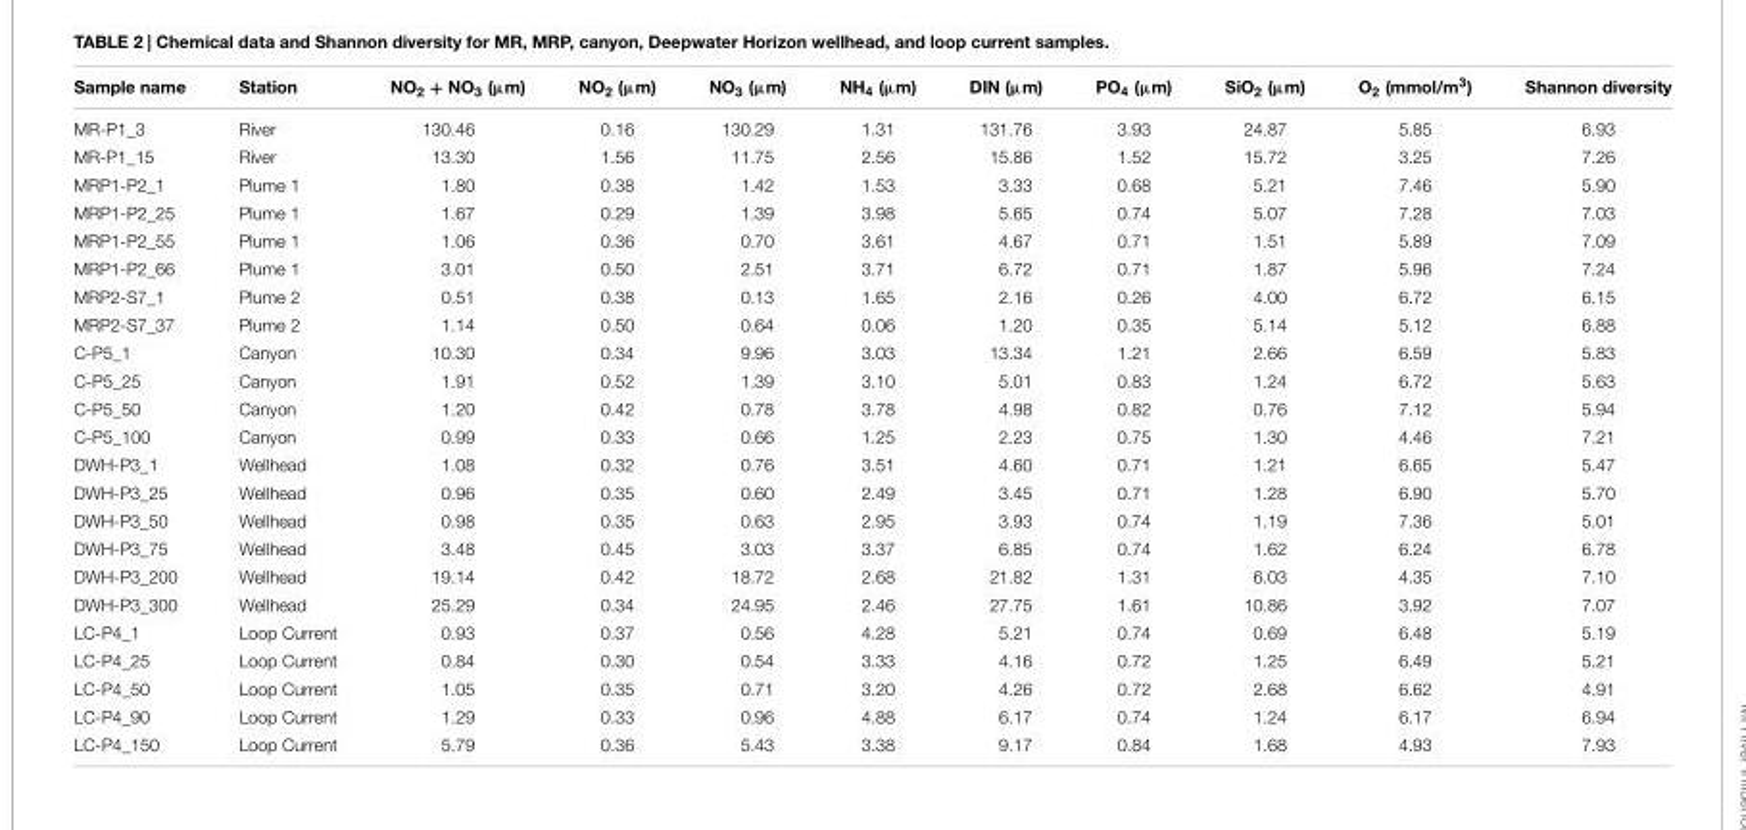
<table><thead><tr><td>Sample name</td><td>Station</td><td>NO<sub>2</sub> + NO<sub>3</sub> (µm)</td><td>NO<sub>2</sub> (µm)</td><td>NO<sub>3</sub> (µm)</td><td>NH<sub>4</sub> (µm)</td><td>DIN (µm)</td><td>PO<sub>4</sub> (µm)</td><td>SiO<sub>2</sub> (µm)</td><td>O<sub>2</sub> (mmol/m<sup>3</sup>)</td><td>Shannon diversity</td></tr></thead><tbody><tr><td>MR-P1_3</td><td>River</td><td>130.46</td><td>0.16</td><td>130.29</td><td>1.31</td><td>131.76</td><td>3.93</td><td>24.87</td><td>5.85</td><td>6.93</td></tr><tr><td>MR-P1_15</td><td>River</td><td>13.30</td><td>1.56</td><td>11.75</td><td>2.56</td><td>15.86</td><td>1.52</td><td>15.72</td><td>3.25</td><td>7.26</td></tr><tr><td>MRP1-P2_1</td><td>Plume 1</td><td>1.80</td><td>0.38</td><td>1.42</td><td>1.53</td><td>3.33</td><td>0.68</td><td>5.21</td><td>7.46</td><td>5.90</td></tr><tr><td>MRP1-P2_25</td><td>Plume 1</td><td>1.67</td><td>0.29</td><td>1.39</td><td>3.98</td><td>5.65</td><td>0.74</td><td>5.07</td><td>7.28</td><td>7.03</td></tr><tr><td>MRP1-P2_55</td><td>Plume 1</td><td>1.06</td><td>0.36</td><td>0.70</td><td>3.61</td><td>4.67</td><td>0.71</td><td>1.51</td><td>5.89</td><td>7.09</td></tr><tr><td>MRP1-P2_66</td><td>Plume 1</td><td>3.01</td><td>0.50</td><td>2.51</td><td>3.71</td><td>6.72</td><td>0.71</td><td>1.87</td><td>5.96</td><td>7.24</td></tr><tr><td>MRP2-S7_1</td><td>Plume 2</td><td>0.51</td><td>0.38</td><td>0.13</td><td>1.65</td><td>2.16</td><td>0.26</td><td>4.00</td><td>6.72</td><td>6.15</td></tr><tr><td>MRP2-S7_37</td><td>Plume 2</td><td>1.14</td><td>0.50</td><td>0.64</td><td>0.06</td><td>1.20</td><td>0.35</td><td>5.14</td><td>5.12</td><td>6.88</td></tr><tr><td>C-P5_1</td><td>Canyon</td><td>10.30</td><td>0.34</td><td>9.96</td><td>3.03</td><td>13.34</td><td>1.21</td><td>2.66</td><td>6.59</td><td>5.83</td></tr><tr><td>C-P5_25</td><td>Canyon</td><td>1.91</td><td>0.52</td><td>1.39</td><td>3.10</td><td>5.01</td><td>0.83</td><td>1.24</td><td>6.72</td><td>5.63</td></tr><tr><td>C-P5_50</td><td>Canyon</td><td>1.20</td><td>0.42</td><td>0.78</td><td>3.78</td><td>4.98</td><td>0.82</td><td>0.76</td><td>7.12</td><td>5.94</td></tr><tr><td>C-P5_100</td><td>Canyon</td><td>0.99</td><td>0.33</td><td>0.66</td><td>1.25</td><td>2.23</td><td>0.75</td><td>1.30</td><td>4.46</td><td>7.21</td></tr><tr><td>DWH-P3_1</td><td>Wellhead</td><td>1.08</td><td>0.32</td><td>0.76</td><td>3.51</td><td>4.60</td><td>0.71</td><td>1.21</td><td>6.65</td><td>5.47</td></tr><tr><td>DWH-P3_25</td><td>Wellhead</td><td>0.96</td><td>0.35</td><td>0.60</td><td>2.49</td><td>3.45</td><td>0.71</td><td>1.28</td><td>6.90</td><td>5.70</td></tr><tr><td>DWH-P3_50</td><td>Wellhead</td><td>0.98</td><td>0.35</td><td>0.63</td><td>2.95</td><td>3.93</td><td>0.74</td><td>1.19</td><td>7.36</td><td>5.01</td></tr><tr><td>DWH-P3_75</td><td>Wellhead</td><td>3.48</td><td>0.45</td><td>3.03</td><td>3.37</td><td>6.85</td><td>0.74</td><td>1.62</td><td>6.24</td><td>6.78</td></tr><tr><td>DWH-P3_200</td><td>Wellhead</td><td>19.14</td><td>0.42</td><td>18.72</td><td>2.68</td><td>21.82</td><td>1.31</td><td>6.03</td><td>4.35</td><td>7.10</td></tr><tr><td>DWH-P3_300</td><td>Wellhead</td><td>25.29</td><td>0.34</td><td>24.95</td><td>2.46</td><td>27.75</td><td>1.61</td><td>10.86</td><td>3.92</td><td>7.07</td></tr><tr><td>LC-P4_1</td><td>Loop Current</td><td>0.93</td><td>0.37</td><td>0.56</td><td>4.28</td><td>5.21</td><td>0.74</td><td>0.69</td><td>6.48</td><td>5.19</td></tr><tr><td>LC-P4_25</td><td>Loop Current</td><td>0.84</td><td>0.30</td><td>0.54</td><td>3.33</td><td>4.16</td><td>0.72</td><td>1.25</td><td>6.49</td><td>5.21</td></tr><tr><td>LC-P4_50</td><td>Loop Current</td><td>1.05</td><td>0.35</td><td>0.71</td><td>3.20</td><td>4.26</td><td>0.72</td><td>2.68</td><td>6.62</td><td>4.91</td></tr><tr><td>LC-P4_90</td><td>Loop Current</td><td>1.29</td><td>0.33</td><td>0.96</td><td>4.88</td><td>6.17</td><td>0.74</td><td>1.24</td><td>6.17</td><td>6.94</td></tr><tr><td>LC-P4_150</td><td>Loop Current</td><td>5.79</td><td>0.36</td><td>5.43</td><td>3.38</td><td>9.17</td><td>0.84</td><td>1.68</td><td>4.93</td><td>7.93</td></tr></tbody></table>